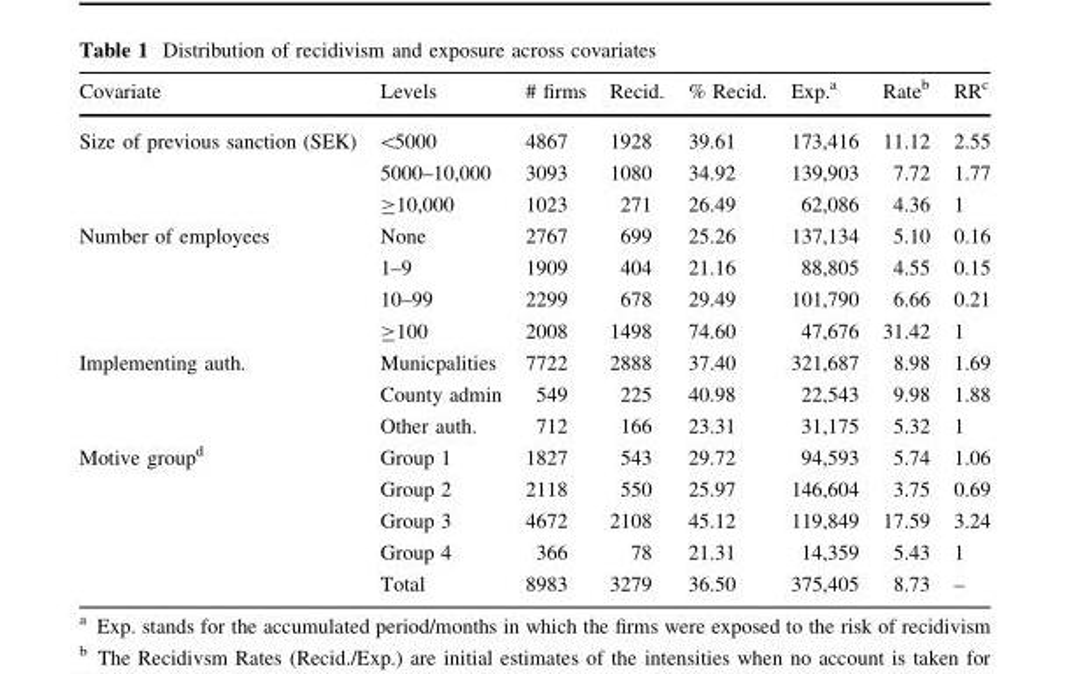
<table><thead><tr><td>Covariate</td><td>Levels</td><td># firms</td><td>Recid.</td><td>% Recid.</td><td>Exp.<sup>a</sup></td><td>Rate<sup>b</sup></td><td>RR<sup>c</sup></td></tr></thead><tbody><tr><td rowspan="3">Size of previous sanction (SEK)</td><td>&lt;5000</td><td>4867</td><td>1928</td><td>39.61</td><td>173,416</td><td>11.12</td><td>2.55</td></tr><tr><td>5000–10,000</td><td>3093</td><td>1080</td><td>34.92</td><td>139,903</td><td>7.72</td><td>1.77</td></tr><tr><td>≥10,000</td><td>1023</td><td>271</td><td>26.49</td><td>62,086</td><td>4.36</td><td>1</td></tr><tr><td rowspan="4">Number of employees</td><td>None</td><td>2767</td><td>699</td><td>25.26</td><td>137,134</td><td>5.10</td><td>0.16</td></tr><tr><td>1–9</td><td>1909</td><td>404</td><td>21.16</td><td>88,805</td><td>4.55</td><td>0.15</td></tr><tr><td>10–99</td><td>2299</td><td>678</td><td>29.49</td><td>101,790</td><td>6.66</td><td>0.21</td></tr><tr><td>≥100</td><td>2008</td><td>1498</td><td>74.60</td><td>47,676</td><td>31.42</td><td>1</td></tr><tr><td rowspan="3">Implementing auth.</td><td>Municpalities</td><td>7722</td><td>2888</td><td>37.40</td><td>321,687</td><td>8.98</td><td>1.69</td></tr><tr><td>County admin</td><td>549</td><td>225</td><td>40.98</td><td>22,543</td><td>9.98</td><td>1.88</td></tr><tr><td>Other auth.</td><td>712</td><td>166</td><td>23.31</td><td>31,175</td><td>5.32</td><td>1</td></tr><tr><td rowspan="5">Motive group<sup>d</sup></td><td>Group 1</td><td>1827</td><td>543</td><td>29.72</td><td>94,593</td><td>5.74</td><td>1.06</td></tr><tr><td>Group 2</td><td>2118</td><td>550</td><td>25.97</td><td>146,604</td><td>3.75</td><td>0.69</td></tr><tr><td>Group 3</td><td>4672</td><td>2108</td><td>45.12</td><td>119,849</td><td>17.59</td><td>3.24</td></tr><tr><td>Group 4</td><td>366</td><td>78</td><td>21.31</td><td>14,359</td><td>5.43</td><td>1</td></tr><tr><td>Total</td><td>8983</td><td>3279</td><td>36.50</td><td>375,405</td><td>8.73</td><td>–</td></tr></tbody></table>